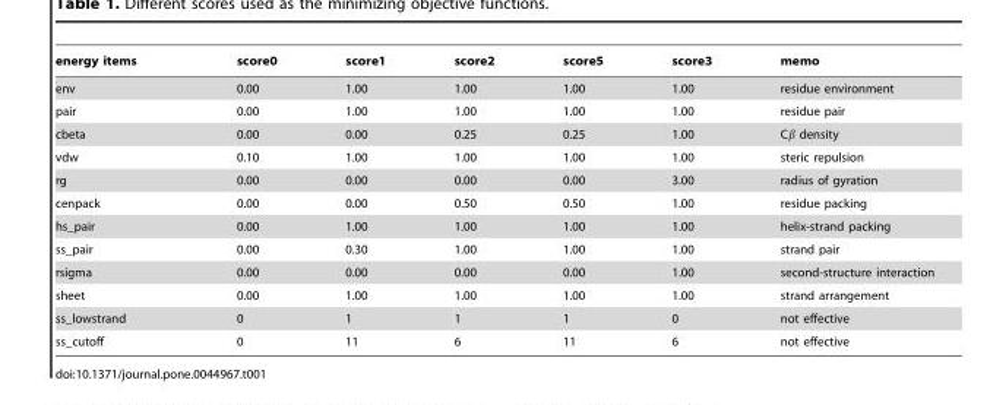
<table><thead><tr><td>energy items</td><td>score0</td><td>score1</td><td>score2</td><td>score5</td><td>score3</td><td>memo</td></tr></thead><tbody><tr><td>env</td><td>0.00</td><td>1.00</td><td>1.00</td><td>1.00</td><td>1.00</td><td>residue environment</td></tr><tr><td>pair</td><td>0.00</td><td>1.00</td><td>1.00</td><td>1.00</td><td>1.00</td><td>residue pair</td></tr><tr><td>cbeta</td><td>0.00</td><td>0.00</td><td>0.25</td><td>0.25</td><td>1.00</td><td>Cb density</td></tr><tr><td>vdw</td><td>0.10</td><td>1.00</td><td>1.00</td><td>1.00</td><td>1.00</td><td>steric repulsion</td></tr><tr><td>rg</td><td>0.00</td><td>0.00</td><td>0.00</td><td>0.00</td><td>3.00</td><td>radius of gyration</td></tr><tr><td>cenpack</td><td>0.00</td><td>0.00</td><td>0.50</td><td>0.50</td><td>1.00</td><td>residue packing</td></tr><tr><td>hs_pair</td><td>0.00</td><td>1.00</td><td>1.00</td><td>1.00</td><td>1.00</td><td>helix-strand packing</td></tr><tr><td>ss_pair</td><td>0.00</td><td>0.30</td><td>1.00</td><td>1.00</td><td>1.00</td><td>strand pair</td></tr><tr><td>rsigma</td><td>0.00</td><td>0.00</td><td>0.00</td><td>0.00</td><td>1.00</td><td>second-structure interaction</td></tr><tr><td>sheet</td><td>0.00</td><td>1.00</td><td>1.00</td><td>1.00</td><td>1.00</td><td>strand arrangement</td></tr><tr><td>ss_lowstrand</td><td>0</td><td>1</td><td>1</td><td>1</td><td>0</td><td>not effective</td></tr><tr><td>ss_cutoff</td><td>0</td><td>11</td><td>6</td><td>11</td><td>6</td><td>not effective</td></tr></tbody></table>